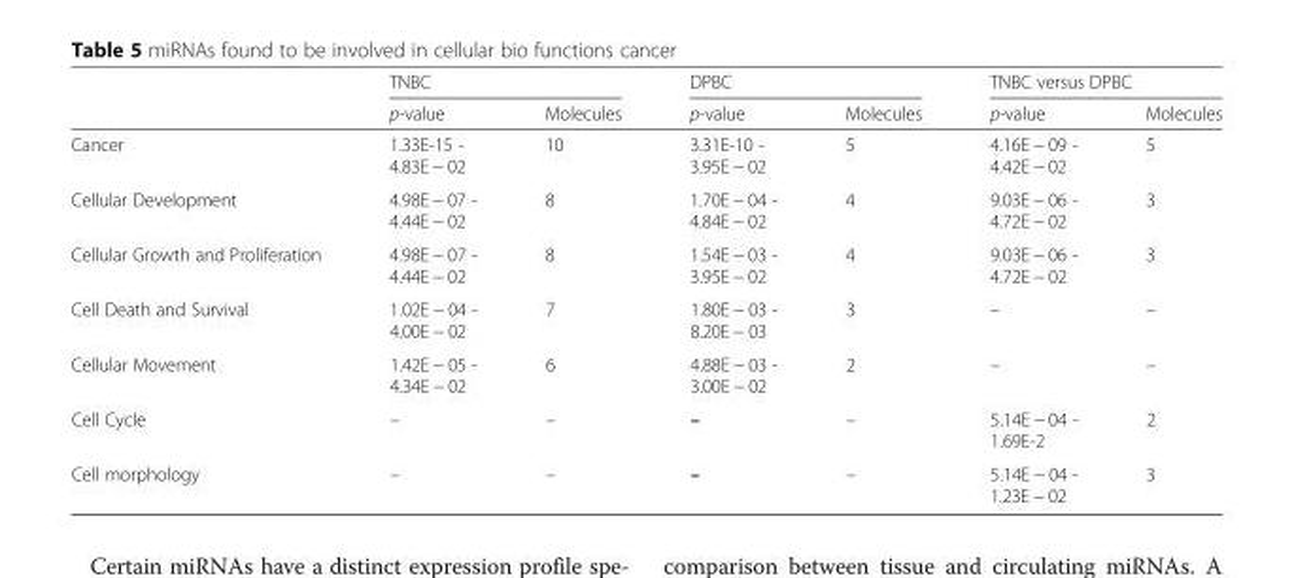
<table><thead><tr><td rowspan="2"></td><td colspan="2">TNBC</td><td colspan="2">DPBC</td><td colspan="2">TNBC versus DPBC</td></tr><tr><td>p-value</td><td>Molecules</td><td>p-value</td><td>Molecules</td><td>p-value</td><td>Molecules</td></tr></thead><tbody><tr><td>Cancer</td><td>1.33E-15 - 4.83E − 02</td><td>10</td><td>3.31E-10 - 3.95E − 02</td><td>5</td><td>4.16E − 09 - 4.42E − 02</td><td>5</td></tr><tr><td>Cellular Development</td><td>4.98E − 07 - 4.44E − 02</td><td>8</td><td>1.70E − 04 - 4.84E − 02</td><td>4</td><td>9.03E − 06 - 4.72E − 02</td><td>3</td></tr><tr><td>Cellular Growth and Proliferation</td><td>4.98E − 07 - 4.44E − 02</td><td>8</td><td>1.54E − 03 - 3.95E − 02</td><td>4</td><td>9.03E − 06 - 4.72E − 02</td><td>3</td></tr><tr><td>Cell Death and Survival</td><td>1.02E − 04 - 4.00E − 02</td><td>7</td><td>1.80E − 03 - 8.20E − 03</td><td>3</td><td>–</td><td>–</td></tr><tr><td>Cellular Movement</td><td>1.42E − 05 - 4.34E − 02</td><td>6</td><td>4.88E − 03 - 3.00E − 02</td><td>2</td><td>–</td><td>–</td></tr><tr><td>Cell Cycle</td><td>–</td><td>–</td><td>–</td><td>–</td><td>5.14E − 04 - 1.69E-2</td><td>2</td></tr><tr><td>Cell morphology</td><td>–</td><td>–</td><td>–</td><td>–</td><td>5.14E − 04 - 1.23E − 02</td><td>3</td></tr></tbody></table>